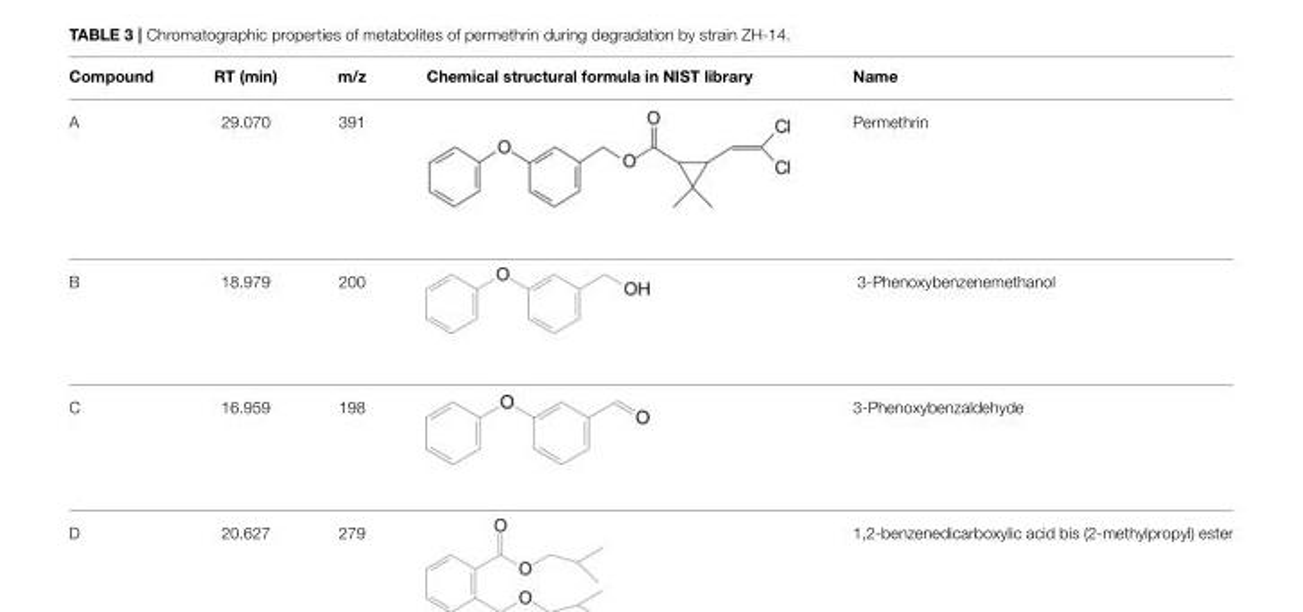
<table><thead><tr><td>Compound</td><td>RT (min)</td><td>m/z</td><td>Chemical structural formula in NIST library</td><td>Name</td></tr></thead><tbody><tr><td>A</td><td>29.070</td><td>391</td><td></td><td>Permethrin</td></tr><tr><td>B</td><td>18.979</td><td>200</td><td></td><td>3-Phenoxybenzenemethanol</td></tr><tr><td>C</td><td>16.959</td><td>198</td><td></td><td>3-Phenoxybenzaldehyde</td></tr><tr><td>D</td><td>20.627</td><td>279</td><td></td><td>1,2-benzenedicarboxylic acid bis (2-methylpropyl) ester</td></tr></tbody></table>